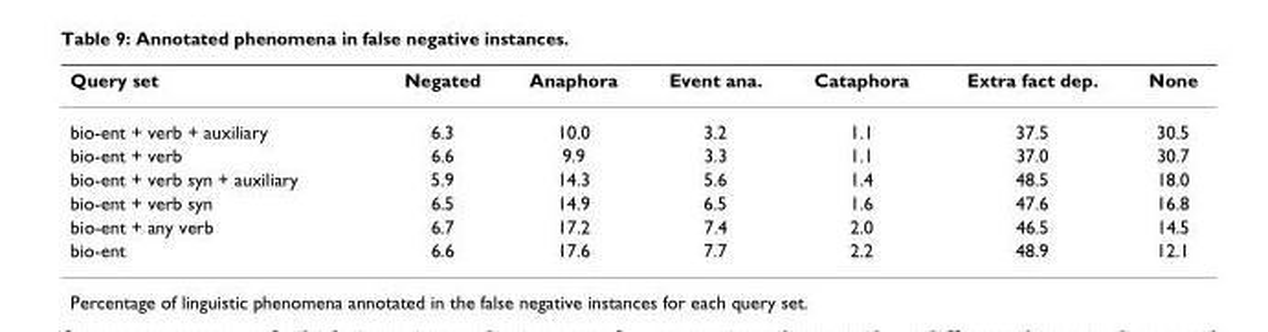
<table><thead><tr><td>Query set</td><td>Negated</td><td>Anaphora</td><td>Event ana.</td><td>Cataphora</td><td>Extra fact dep.</td><td>None</td></tr></thead><tbody><tr><td>bio-ent + verb + auxiliary</td><td>6.3</td><td>10.0</td><td>3.2</td><td>1.1</td><td>37.5</td><td>30.5</td></tr><tr><td>bio-ent + verb</td><td>6.6</td><td>9.9</td><td>3.3</td><td>1.1</td><td>37.0</td><td>30.7</td></tr><tr><td>bio-ent + verb syn + auxiliary</td><td>5.9</td><td>14.3</td><td>5.6</td><td>1.4</td><td>48.5</td><td>18.0</td></tr><tr><td>bio-ent + verb syn</td><td>6.5</td><td>14.9</td><td>6.5</td><td>1.6</td><td>47.6</td><td>16.8</td></tr><tr><td>bio-ent + any verb</td><td>6.7</td><td>17.2</td><td>7.4</td><td>2.0</td><td>46.5</td><td>14.5</td></tr><tr><td>bio-ent</td><td>6.6</td><td>17.6</td><td>7.7</td><td>2.2</td><td>48.9</td><td>12.1</td></tr></tbody></table>